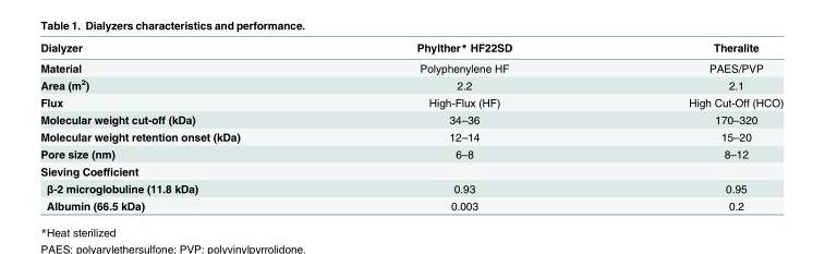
<table><thead><tr><td>Dialyzer</td><td>Phylther* HF22SD</td><td>Theralite</td></tr></thead><tbody><tr><td>Material</td><td>Polyphenylene HF</td><td>PAES/PVP</td></tr><tr><td>Area (m<sup>2</sup>)</td><td>2.2</td><td>2.1</td></tr><tr><td>Flux</td><td>High-Flux (HF)</td><td>High Cut-Off (HCO)</td></tr><tr><td>Molecular weight cut-off (kDa)</td><td>34–36</td><td>170–320</td></tr><tr><td>Molecular weight retention onset (kDa)</td><td>12–14</td><td>15–20</td></tr><tr><td>Pore size (nm)</td><td>6–8</td><td>8–12</td></tr><tr><td colspan="3">Sieving Coefficient</td></tr><tr><td>β-2 microglobuline (11.8 kDa)</td><td>0.93</td><td>0.95</td></tr><tr><td>Albumin (66.5 kDa)</td><td>0.003</td><td>0.2</td></tr></tbody></table>